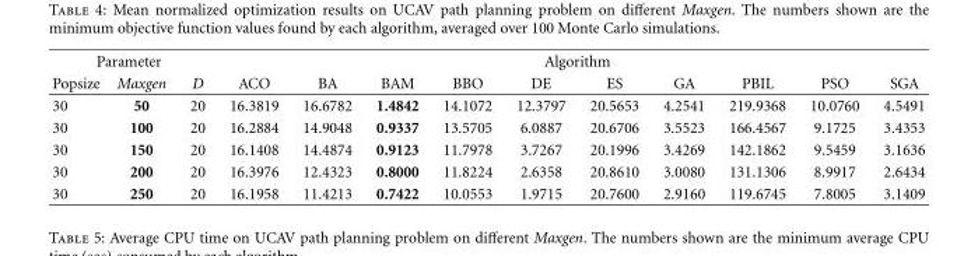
<table><thead><tr><td colspan="3">Parameter</td><td colspan="10">Algorithm</td></tr><tr><td>Popsize</td><td>Maxgen</td><td>D</td><td>ACO</td><td>BA</td><td>BAM</td><td>BBO</td><td>DE</td><td>ES</td><td>GA</td><td>PBIL</td><td>PSO</td><td>SGA</td></tr></thead><tbody><tr><td>30</td><td>50</td><td>20</td><td>16.3819</td><td>16.6782</td><td>1.4842</td><td>14.1072</td><td>12.3797</td><td>20.5653</td><td>4.2541</td><td>219.9368</td><td>10.0760</td><td>4.5491</td></tr><tr><td>30</td><td>100</td><td>20</td><td>16.2884</td><td>14.9048</td><td>0.9337</td><td>13.5705</td><td>6.0887</td><td>20.6706</td><td>3.5523</td><td>166.4567</td><td>9.1725</td><td>3.4353</td></tr><tr><td>30</td><td>150</td><td>20</td><td>16.1408</td><td>14.4874</td><td>0.9123</td><td>11.7978</td><td>3.7267</td><td>20.1996</td><td>3.4269</td><td>142.1862</td><td>9.5459</td><td>3.1636</td></tr><tr><td>30</td><td>200</td><td>20</td><td>16.3976</td><td>12.4323</td><td>0.8000</td><td>11.8224</td><td>2.6358</td><td>20.8610</td><td>3.0080</td><td>131.1306</td><td>8.9917</td><td>2.6434</td></tr><tr><td>30</td><td>250</td><td>20</td><td>16.1958</td><td>11.4213</td><td>0.7422</td><td>10.0553</td><td>1.9715</td><td>20.7600</td><td>2.9160</td><td>119.6745</td><td>7.8005</td><td>3.1409</td></tr></tbody></table>